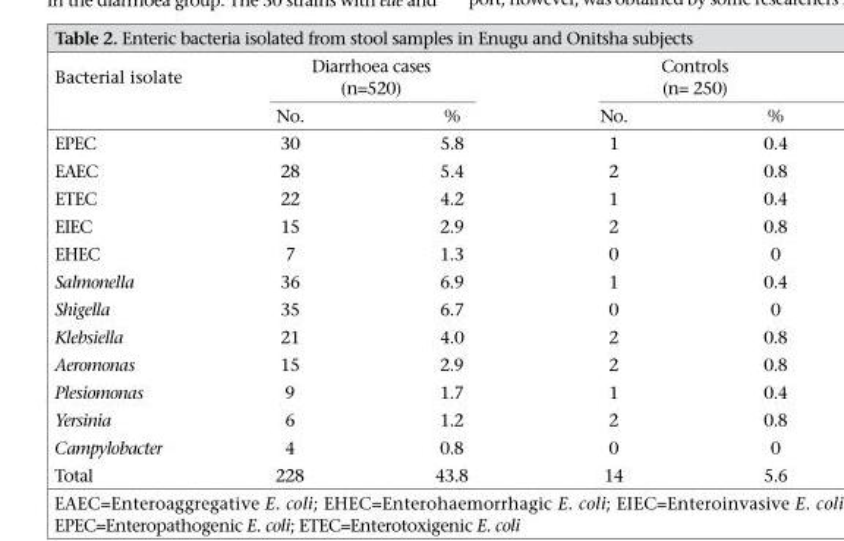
<table><thead><tr><td rowspan="2">Bacterial isolate</td><td colspan="2">Diarrhoea cases (n=520)</td><td colspan="2">Controls (n= 250)</td></tr><tr><td>No.</td><td>%</td><td>No.</td><td>%</td></tr></thead><tbody><tr><td>EPEC</td><td>30</td><td>5.8</td><td>1</td><td>0.4</td></tr><tr><td>EAEC</td><td>28</td><td>5.4</td><td>2</td><td>0.8</td></tr><tr><td>ETEC</td><td>22</td><td>4.2</td><td>1</td><td>0.4</td></tr><tr><td>EIEC</td><td>15</td><td>2.9</td><td>2</td><td>0.8</td></tr><tr><td>EHEC</td><td>7</td><td>1.3</td><td>0</td><td>0</td></tr><tr><td>Salmonella</td><td>36</td><td>6.9</td><td>1</td><td>0.4</td></tr><tr><td>Shigella</td><td>35</td><td>6.7</td><td>0</td><td>0</td></tr><tr><td>Klebsiella</td><td>21</td><td>4.0</td><td>2</td><td>0.8</td></tr><tr><td>Aeromonas</td><td>15</td><td>2.9</td><td>2</td><td>0.8</td></tr><tr><td>Plesiomonas</td><td>9</td><td>1.7</td><td>1</td><td>0.4</td></tr><tr><td>Yersinia</td><td>6</td><td>1.2</td><td>2</td><td>0.8</td></tr><tr><td>Campylobacter</td><td>4</td><td>0.8</td><td>0</td><td>0</td></tr><tr><td>Total</td><td>228</td><td>43.8</td><td>14</td><td>5.6</td></tr></tbody></table>